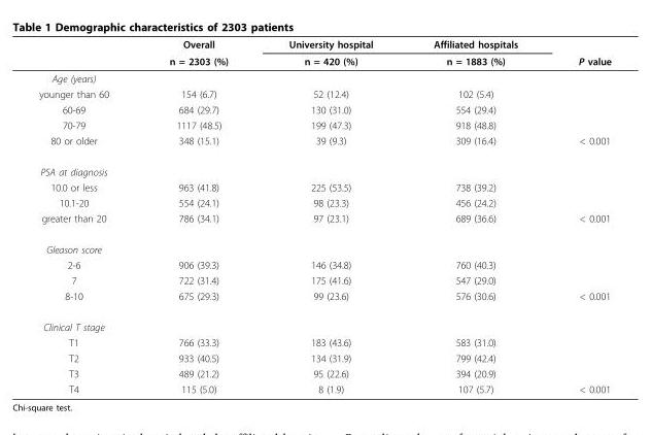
<table><thead><tr><td rowspan="2"></td><td rowspan="2">Overall n = 2303 (%)</td><td rowspan="2">University hospital n = 420 (%)</td><td rowspan="2">Affiliated hospitals n = 1883 (%)</td><td rowspan="2">P value</td></tr><tr></tr></thead><tbody><tr><td colspan="5">Age (years)</td></tr><tr><td>younger than 60</td><td>154 (6.7)</td><td>52 (12.4)</td><td>102 (5.4)</td><td></td></tr><tr><td>60-69</td><td>684 (29.7)</td><td>130 (31.0)</td><td>554 (29.4)</td><td></td></tr><tr><td>70-79</td><td>1117 (48.5)</td><td>199 (47.3)</td><td>918 (48.8)</td><td></td></tr><tr><td>80 or older</td><td>348 (15.1)</td><td>39 (9.3)</td><td>309 (16.4)</td><td>&lt; 0.001</td></tr><tr><td colspan="5">PSA at diagnosis</td></tr><tr><td>10.0 or less</td><td>963 (41.8)</td><td>225 (53.5)</td><td>738 (39.2)</td><td></td></tr><tr><td>10.1-20</td><td>554 (24.1)</td><td>98 (23.3)</td><td>456 (24.2)</td><td></td></tr><tr><td>greater than 20</td><td>786 (34.1)</td><td>97 (23.1)</td><td>689 (36.6)</td><td>&lt; 0.001</td></tr><tr><td colspan="5">Gleason score</td></tr><tr><td>2-6</td><td>906 (39.3)</td><td>146 (34.8)</td><td>760 (40.3)</td><td></td></tr><tr><td>7</td><td>722 (31.4)</td><td>175 (41.6)</td><td>547 (29.0)</td><td></td></tr><tr><td>8-10</td><td>675 (29.3)</td><td>99 (23.6)</td><td>576 (30.6)</td><td>&lt; 0.001</td></tr><tr><td colspan="5">Clinical T stage</td></tr><tr><td>T1</td><td>766 (33.3)</td><td>183 (43.6)</td><td>583 (31.0)</td><td></td></tr><tr><td>T2</td><td>933 (40.5)</td><td>134 (31.9)</td><td>799 (42.4)</td><td></td></tr><tr><td>T3</td><td>489 (21.2)</td><td>95 (22.6)</td><td>394 (20.9)</td><td></td></tr><tr><td>T4</td><td>115 (5.0)</td><td>8 (1.9)</td><td>107 (5.7)</td><td>&lt; 0.001</td></tr></tbody></table>